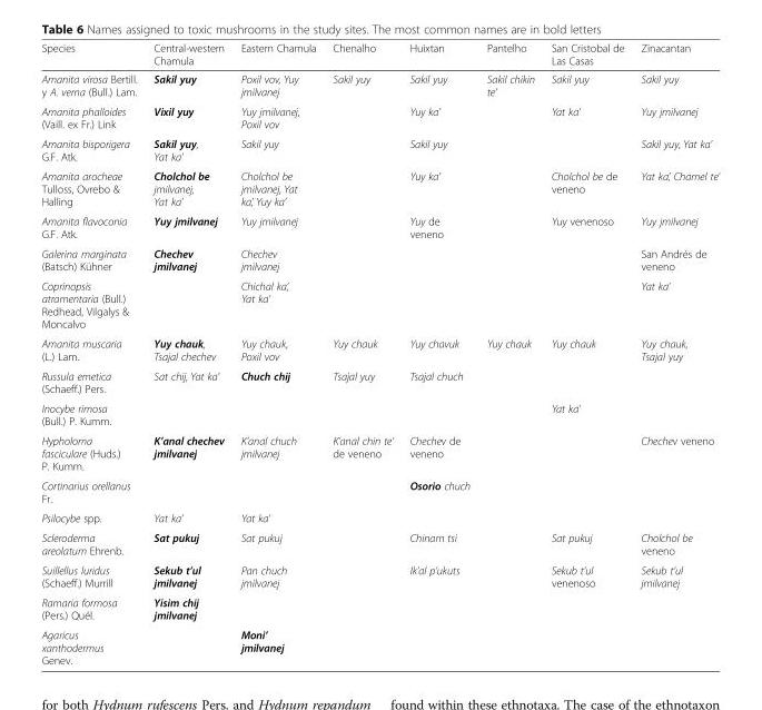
<table><thead><tr><td>Species</td><td>Central-western Chamula</td><td>Eastern Chamula</td><td>Chenalho</td><td>Huixtan</td><td>Pantelho</td><td>San Cristobal de Las Casas</td><td>Zinacantan</td></tr></thead><tbody><tr><td>Amanita virosa Bertill. y A. verna (Bull.) Lam.</td><td>Sakil yuy</td><td>Poxil vov, Yuy jmilvanej</td><td>Sakil yuy</td><td>Sakil yuy</td><td>Sakil chikin te’</td><td>Sakil yuy</td><td>Sakil yuy</td></tr><tr><td>Amanita phalloides (Vaill. ex Fr.) Link</td><td>Vixil yuy</td><td>Yuy jmilvanej, Poxil vov</td><td></td><td>Yuy ka’</td><td></td><td>Yat ka’</td><td>Yuy jmilvanej</td></tr><tr><td>Amanita bisporigera G.F. Atk.</td><td>Sakil yuy, Yat ka’</td><td>Sakil yuy</td><td></td><td>Sakil yuy</td><td></td><td></td><td>Sakil yuy, Yat ka’</td></tr><tr><td>Amanita arocheae Tulloss, Ovrebo &amp; Halling</td><td>Cholchol be jmilvanej, Yat ka’</td><td>Cholchol be jmilvanej, Yat ka’, Yuy ka’</td><td></td><td>Yuy ka’</td><td></td><td>Cholchol be de veneno</td><td>Yat ka’, Chamel te’</td></tr><tr><td>Amanita flavoconia G.F. Atk.</td><td>Yuy jmilvanej</td><td>Yuy jmilvanej</td><td></td><td>Yuy de veneno</td><td></td><td>Yuy venenoso</td><td>Yuy jmilvanej</td></tr><tr><td>Galerina marginata (Batsch) Kühner</td><td>Chechev jmilvanej</td><td>Chechev jmilvanej</td><td></td><td></td><td></td><td></td><td>San Andrés de veneno</td></tr><tr><td>Coprinopsis atramentaria (Bull.) Redhead, Vilgalys &amp; Moncalvo</td><td></td><td>Chichal ka’, Yat ka’</td><td></td><td></td><td></td><td></td><td>Yat ka’</td></tr><tr><td>Amanita muscaria (L.) Lam.</td><td>Yuy chauk, Tsajal chechev</td><td>Yuy chauk, Poxil vov</td><td>Yuy chauk</td><td>Yuy chavuk</td><td>Yuy chauk</td><td>Yuy chauk</td><td>Yuy chauk, Tsajal yuy</td></tr><tr><td>Russula emetica (Schaeff.) Pers.</td><td>Sat chij, Yat ka’</td><td>Chuch chij</td><td>Tsajal yuy</td><td>Tsajal chuch</td><td></td><td></td><td></td></tr><tr><td>Inocybe rimosa (Bull.) P. Kumm.</td><td></td><td></td><td></td><td></td><td></td><td>Yat ka’</td><td></td></tr><tr><td>Hypholoma fasciculare (Huds.) P. Kumm.</td><td>K’anal chechev jmilvanej</td><td>K’anal chuch jmilvanej</td><td>K’anal chin te’ de veneno</td><td>Chechev de veneno</td><td></td><td></td><td>Chechev veneno</td></tr><tr><td>Cortinarius orellanus Fr.</td><td></td><td></td><td></td><td>Osorio chuch</td><td></td><td></td><td></td></tr><tr><td>Psilocybe spp.</td><td>Yat ka’</td><td>Yat ka’</td><td></td><td></td><td></td><td></td><td></td></tr><tr><td>Scleroderma areolatum Ehrenb.</td><td>Sat pukuj</td><td>Sat pukuj</td><td></td><td>Chinam tsi</td><td></td><td>Sat pukuj</td><td>Cholchol be veneno</td></tr><tr><td>Suillellus luridus (Schaeff.) Murrill</td><td>Sekub t’ul jmilvanej</td><td>Pan chuch jmilvanej</td><td></td><td>Ik’al p’ukuts</td><td></td><td>Sekub t’ul venenoso</td><td>Sekub t’ul jmilvanej</td></tr><tr><td>Ramaria formosa (Pers.) Quél.</td><td>Yisim chij jmilvanej</td><td></td><td></td><td></td><td></td><td></td><td></td></tr><tr><td>Agaricus xanthodermus Genev.</td><td></td><td>Moni’ jmilvanej</td><td></td><td></td><td></td><td></td><td></td></tr></tbody></table>